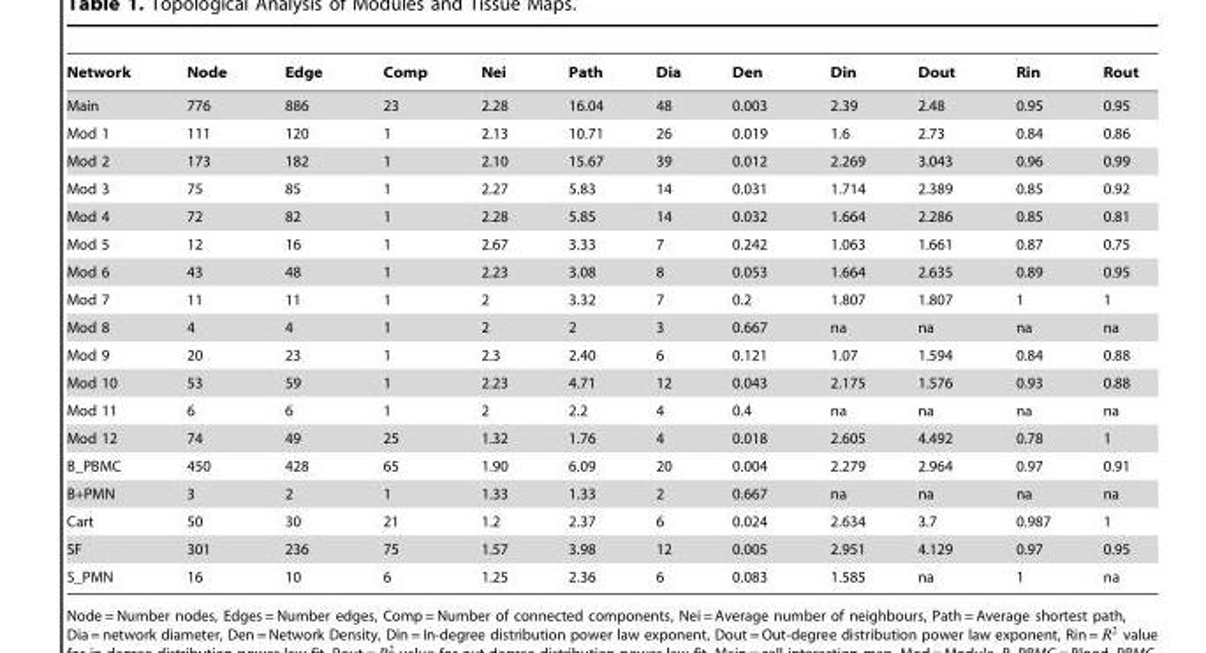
<table><thead><tr><td>Network</td><td>Node</td><td>Edge</td><td>Comp</td><td>Nei</td><td>Path</td><td>Dia</td><td>Den</td><td>Din</td><td>Dout</td><td>Rin</td><td>Rout</td></tr></thead><tbody><tr><td>Main</td><td>776</td><td>886</td><td>23</td><td>2.28</td><td>16.04</td><td>48</td><td>0.003</td><td>2.39</td><td>2.48</td><td>0.95</td><td>0.95</td></tr><tr><td>Mod 1</td><td>111</td><td>120</td><td>1</td><td>2.13</td><td>10.71</td><td>26</td><td>0.019</td><td>1.6</td><td>2.73</td><td>0.84</td><td>0.86</td></tr><tr><td>Mod 2</td><td>173</td><td>182</td><td>1</td><td>2.10</td><td>15.67</td><td>39</td><td>0.012</td><td>2.269</td><td>3.043</td><td>0.96</td><td>0.99</td></tr><tr><td>Mod 3</td><td>75</td><td>85</td><td>1</td><td>2.27</td><td>5.83</td><td>14</td><td>0.031</td><td>1.714</td><td>2.389</td><td>0.85</td><td>0.92</td></tr><tr><td>Mod 4</td><td>72</td><td>82</td><td>1</td><td>2.28</td><td>5.85</td><td>14</td><td>0.032</td><td>1.664</td><td>2.286</td><td>0.85</td><td>0.81</td></tr><tr><td>Mod 5</td><td>12</td><td>16</td><td>1</td><td>2.67</td><td>3.33</td><td>7</td><td>0.242</td><td>1.063</td><td>1.661</td><td>0.87</td><td>0.75</td></tr><tr><td>Mod 6</td><td>43</td><td>48</td><td>1</td><td>2.23</td><td>3.08</td><td>8</td><td>0.053</td><td>1.664</td><td>2.635</td><td>0.89</td><td>0.95</td></tr><tr><td>Mod 7</td><td>11</td><td>11</td><td>1</td><td>2</td><td>3.32</td><td>7</td><td>0.2</td><td>1.807</td><td>1.807</td><td>1</td><td>1</td></tr><tr><td>Mod 8</td><td>4</td><td>4</td><td>1</td><td>2</td><td>2</td><td>3</td><td>0.667</td><td>na</td><td>na</td><td>na</td><td>na</td></tr><tr><td>Mod 9</td><td>20</td><td>23</td><td>1</td><td>2.3</td><td>2.40</td><td>6</td><td>0.121</td><td>1.07</td><td>1.594</td><td>0.84</td><td>0.88</td></tr><tr><td>Mod 10</td><td>53</td><td>59</td><td>1</td><td>2.23</td><td>4.71</td><td>12</td><td>0.043</td><td>2.175</td><td>1.576</td><td>0.93</td><td>0.88</td></tr><tr><td>Mod 11</td><td>6</td><td>6</td><td>1</td><td>2</td><td>2.2</td><td>4</td><td>0.4</td><td>na</td><td>na</td><td>na</td><td>na</td></tr><tr><td>Mod 12</td><td>74</td><td>49</td><td>25</td><td>1.32</td><td>1.76</td><td>4</td><td>0.018</td><td>2.605</td><td>4.492</td><td>0.78</td><td>1</td></tr><tr><td>B_PBMC</td><td>450</td><td>428</td><td>65</td><td>1.90</td><td>6.09</td><td>20</td><td>0.004</td><td>2.279</td><td>2.964</td><td>0.97</td><td>0.91</td></tr><tr><td>B+PMN</td><td>3</td><td>2</td><td>1</td><td>1.33</td><td>1.33</td><td>2</td><td>0.667</td><td>na</td><td>na</td><td>na</td><td>na</td></tr><tr><td>Cart</td><td>50</td><td>30</td><td>21</td><td>1.2</td><td>2.37</td><td>6</td><td>0.024</td><td>2.634</td><td>3.7</td><td>0.987</td><td>1</td></tr><tr><td>SF</td><td>301</td><td>236</td><td>75</td><td>1.57</td><td>3.98</td><td>12</td><td>0.005</td><td>2.951</td><td>4.129</td><td>0.97</td><td>0.95</td></tr><tr><td>S_PMN</td><td>16</td><td>10</td><td>6</td><td>1.25</td><td>2.36</td><td>6</td><td>0.083</td><td>1.585</td><td>na</td><td>1</td><td>na</td></tr></tbody></table>